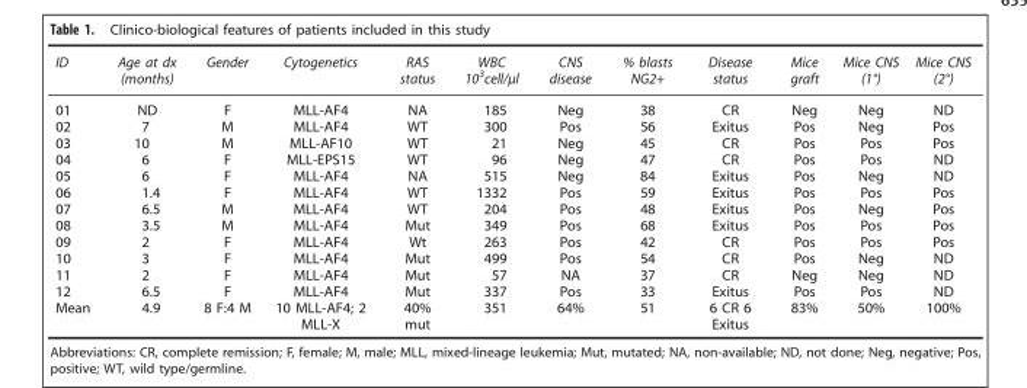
<table><thead><tr><td>ID</td><td>Age at dx (months)</td><td>Gender</td><td>Cytogenetics</td><td>RAS status</td><td>WBC 10<sup>3</sup>cell/μl</td><td>CNS disease</td><td>% blasts NG2+</td><td>Disease status</td><td>Mice graft</td><td>Mice CNS (1°)</td><td>Mice CNS (2°)</td></tr></thead><tbody><tr><td>01</td><td>ND</td><td>F</td><td>MLL-AF4</td><td>NA</td><td>185</td><td>Neg</td><td>38</td><td>CR</td><td>Neg</td><td>Neg</td><td>ND</td></tr><tr><td>02</td><td>7</td><td>M</td><td>MLL-AF4</td><td>WT</td><td>300</td><td>Pos</td><td>56</td><td>Exitus</td><td>Pos</td><td>Neg</td><td>Pos</td></tr><tr><td>03</td><td>10</td><td>M</td><td>MLL-AF10</td><td>WT</td><td>21</td><td>Neg</td><td>45</td><td>CR</td><td>Pos</td><td>Pos</td><td>Pos</td></tr><tr><td>04</td><td>6</td><td>F</td><td>MLL-EPS15</td><td>WT</td><td>96</td><td>Neg</td><td>47</td><td>CR</td><td>Pos</td><td>Pos</td><td>ND</td></tr><tr><td>05</td><td>6</td><td>F</td><td>MLL-AF4</td><td>NA</td><td>515</td><td>Neg</td><td>84</td><td>Exitus</td><td>Pos</td><td>Neg</td><td>ND</td></tr><tr><td>06</td><td>1.4</td><td>F</td><td>MLL-AF4</td><td>WT</td><td>1332</td><td>Pos</td><td>59</td><td>Exitus</td><td>Pos</td><td>Pos</td><td>Pos</td></tr><tr><td>07</td><td>6.5</td><td>M</td><td>MLL-AF4</td><td>WT</td><td>204</td><td>Pos</td><td>48</td><td>Exitus</td><td>Pos</td><td>Neg</td><td>Pos</td></tr><tr><td>08</td><td>3.5</td><td>M</td><td>MLL-AF4</td><td>Mut</td><td>349</td><td>Pos</td><td>68</td><td>Exitus</td><td>Pos</td><td>Pos</td><td>Pos</td></tr><tr><td>09</td><td>2</td><td>F</td><td>MLL-AF4</td><td>Wt</td><td>263</td><td>Pos</td><td>42</td><td>CR</td><td>Pos</td><td>Pos</td><td>Pos</td></tr><tr><td>10</td><td>3</td><td>F</td><td>MLL-AF4</td><td>Mut</td><td>499</td><td>Pos</td><td>54</td><td>CR</td><td>Pos</td><td>Neg</td><td>ND</td></tr><tr><td>11</td><td>2</td><td>F</td><td>MLL-AF4</td><td>Mut</td><td>57</td><td>NA</td><td>37</td><td>CR</td><td>Neg</td><td>Neg</td><td>ND</td></tr><tr><td>12</td><td>6.5</td><td>F</td><td>MLL-AF4</td><td>Mut</td><td>337</td><td>Pos</td><td>33</td><td>Exitus</td><td>Pos</td><td>Pos</td><td>ND</td></tr><tr><td>Mean</td><td>4.9</td><td>8 F:4 M</td><td>10 MLL-AF4; 2 MLL-X</td><td>40% mut</td><td>351</td><td>64%</td><td>51</td><td>6 CR 6 Exitus</td><td>83%</td><td>50%</td><td>100%</td></tr></tbody></table>